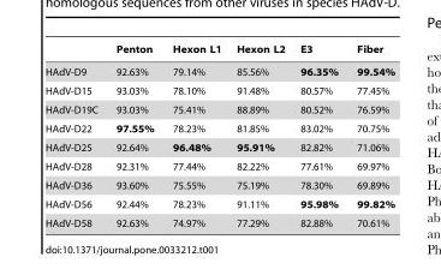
<table><thead><tr><td></td><td>Penton</td><td>Hexon L1</td><td>Hexon L2</td><td>E3</td><td>Fiber</td></tr></thead><tbody><tr><td>HAdV-D9</td><td>92.63%</td><td>79.14%</td><td>85.56%</td><td>96.35%</td><td>99.54%</td></tr><tr><td>HAdV-D15</td><td>93.03%</td><td>78.10%</td><td>91.48%</td><td>80.57%</td><td>77.45%</td></tr><tr><td>HAdV-D19C</td><td>93.03%</td><td>75.41%</td><td>88.89%</td><td>80.52%</td><td>76.59%</td></tr><tr><td>HAdV-D22</td><td>97.55%</td><td>78.23%</td><td>81.85%</td><td>83.02%</td><td>70.75%</td></tr><tr><td>HAdV-D25</td><td>92.64%</td><td>96.48%</td><td>95.91%</td><td>82.82%</td><td>71.06%</td></tr><tr><td>HAdV-D28</td><td>92.31%</td><td>77.44%</td><td>82.22%</td><td>77.61%</td><td>69.97%</td></tr><tr><td>HAdV-D36</td><td>93.60%</td><td>75.55%</td><td>75.19%</td><td>78.30%</td><td>69.89%</td></tr><tr><td>HAdV-D56</td><td>92.44%</td><td>78.23%</td><td>91.11%</td><td>95.98%</td><td>99.82%</td></tr><tr><td>HAdV-D58</td><td>92.63%</td><td>74.97%</td><td>77.29%</td><td>82.88%</td><td>70.61%</td></tr></tbody></table>